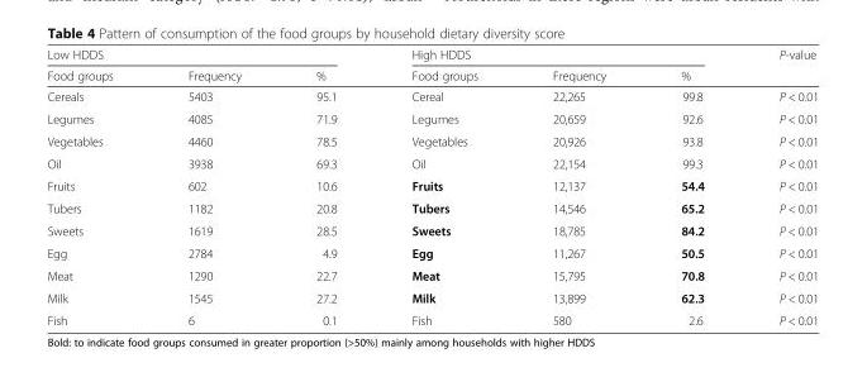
<table><thead><tr><td colspan="3">Low HDDS</td><td colspan="3">High HDDS</td><td rowspan="2">P-value</td></tr><tr><td>Food groups</td><td>Frequency</td><td>%</td><td>Food groups</td><td>Frequency</td><td>%</td></tr></thead><tbody><tr><td>Cereals</td><td>5403</td><td>95.1</td><td>Cereal</td><td>22,265</td><td>99.8</td><td>P &lt; 0.01</td></tr><tr><td>Legumes</td><td>4085</td><td>71.9</td><td>Legumes</td><td>20,659</td><td>92.6</td><td>P &lt; 0.01</td></tr><tr><td>Vegetables</td><td>4460</td><td>78.5</td><td>Vegetables</td><td>20,926</td><td>93.8</td><td>P &lt; 0.01</td></tr><tr><td>Oil</td><td>3938</td><td>69.3</td><td>Oil</td><td>22,154</td><td>99.3</td><td>P &lt; 0.01</td></tr><tr><td>Fruits</td><td>602</td><td>10.6</td><td>Fruits</td><td>12,137</td><td>54.4</td><td>P &lt; 0.01</td></tr><tr><td>Tubers</td><td>1182</td><td>20.8</td><td>Tubers</td><td>14,546</td><td>65.2</td><td>P &lt; 0.01</td></tr><tr><td>Sweets</td><td>1619</td><td>28.5</td><td>Sweets</td><td>18,785</td><td>84.2</td><td>P &lt; 0.01</td></tr><tr><td>Egg</td><td>2784</td><td>4.9</td><td>Egg</td><td>11,267</td><td>50.5</td><td>P &lt; 0.01</td></tr><tr><td>Meat</td><td>1290</td><td>22.7</td><td>Meat</td><td>15,795</td><td>70.8</td><td>P &lt; 0.01</td></tr><tr><td>Milk</td><td>1545</td><td>27.2</td><td>Milk</td><td>13,899</td><td>62.3</td><td>P &lt; 0.01</td></tr><tr><td>Fish</td><td>6</td><td>0.1</td><td>Fish</td><td>580</td><td>2.6</td><td>P &lt; 0.01</td></tr></tbody></table>